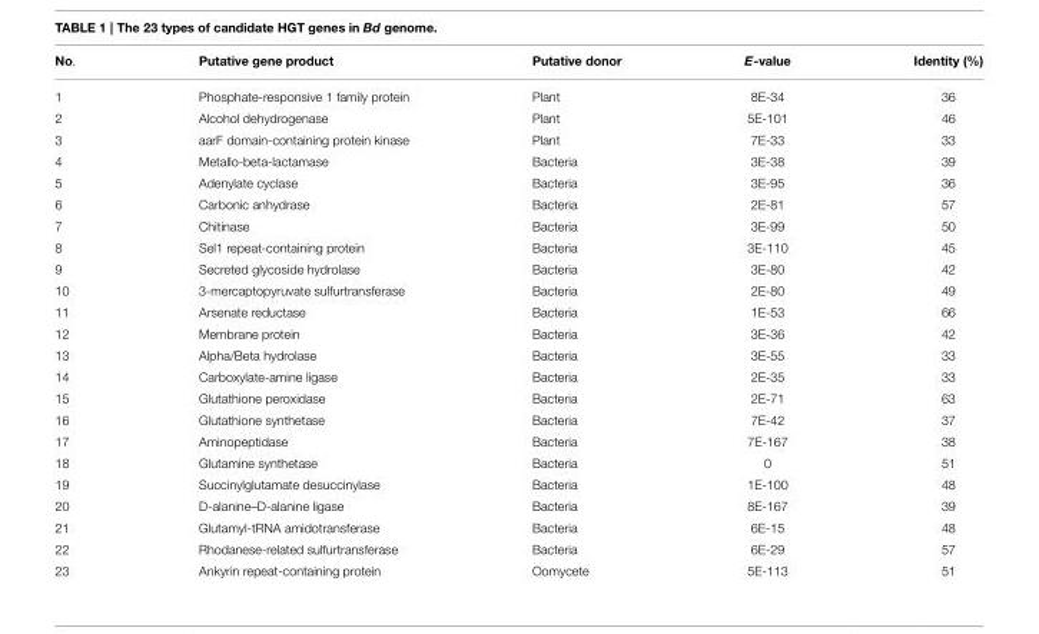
<table><thead><tr><td>No.</td><td>Putative gene product</td><td>Putative donor</td><td>E-value</td><td>Identity (%)</td></tr></thead><tbody><tr><td>1</td><td>Phosphate-responsive 1 family protein</td><td>Plant</td><td>8E-34</td><td>36</td></tr><tr><td>2</td><td>Alcohol dehydrogenase</td><td>Plant</td><td>5E-101</td><td>46</td></tr><tr><td>3</td><td>aarF domain-containing protein kinase</td><td>Plant</td><td>7E-33</td><td>33</td></tr><tr><td>4</td><td>Metallo-beta-lactamase</td><td>Bacteria</td><td>3E-38</td><td>39</td></tr><tr><td>5</td><td>Adenylate cyclase</td><td>Bacteria</td><td>3E-95</td><td>36</td></tr><tr><td>6</td><td>Carbonic anhydrase</td><td>Bacteria</td><td>2E-81</td><td>57</td></tr><tr><td>7</td><td>Chitinase</td><td>Bacteria</td><td>3E-99</td><td>50</td></tr><tr><td>8</td><td>Sel1 repeat-containing protein</td><td>Bacteria</td><td>3E-110</td><td>45</td></tr><tr><td>9</td><td>Secreted glycoside hydrolase</td><td>Bacteria</td><td>3E-80</td><td>42</td></tr><tr><td>10</td><td>3-mercaptopyruvate sulfurtransferase</td><td>Bacteria</td><td>2E-80</td><td>49</td></tr><tr><td>11</td><td>Arsenate reductase</td><td>Bacteria</td><td>1E-53</td><td>66</td></tr><tr><td>12</td><td>Membrane protein</td><td>Bacteria</td><td>3E-36</td><td>42</td></tr><tr><td>13</td><td>Alpha/Beta hydrolase</td><td>Bacteria</td><td>3E-55</td><td>33</td></tr><tr><td>14</td><td>Carboxylate-amine ligase</td><td>Bacteria</td><td>2E-35</td><td>33</td></tr><tr><td>15</td><td>Glutathione peroxidase</td><td>Bacteria</td><td>2E-71</td><td>63</td></tr><tr><td>16</td><td>Glutathione synthetase</td><td>Bacteria</td><td>7E-42</td><td>37</td></tr><tr><td>17</td><td>Aminopeptidase</td><td>Bacteria</td><td>7E-167</td><td>38</td></tr><tr><td>18</td><td>Glutamine synthetase</td><td>Bacteria</td><td>0</td><td>51</td></tr><tr><td>19</td><td>Succinylglutamate desuccinylase</td><td>Bacteria</td><td>1E-100</td><td>48</td></tr><tr><td>20</td><td>D-alanine–D-alanine ligase</td><td>Bacteria</td><td>8E-167</td><td>39</td></tr><tr><td>21</td><td>Glutamyl-tRNA amidotransferase</td><td>Bacteria</td><td>6E-15</td><td>48</td></tr><tr><td>22</td><td>Rhodanese-related sulfurtransferase</td><td>Bacteria</td><td>6E-29</td><td>57</td></tr><tr><td>23</td><td>Ankyrin repeat-containing protein</td><td>Oomycete</td><td>5E-113</td><td>51</td></tr></tbody></table>